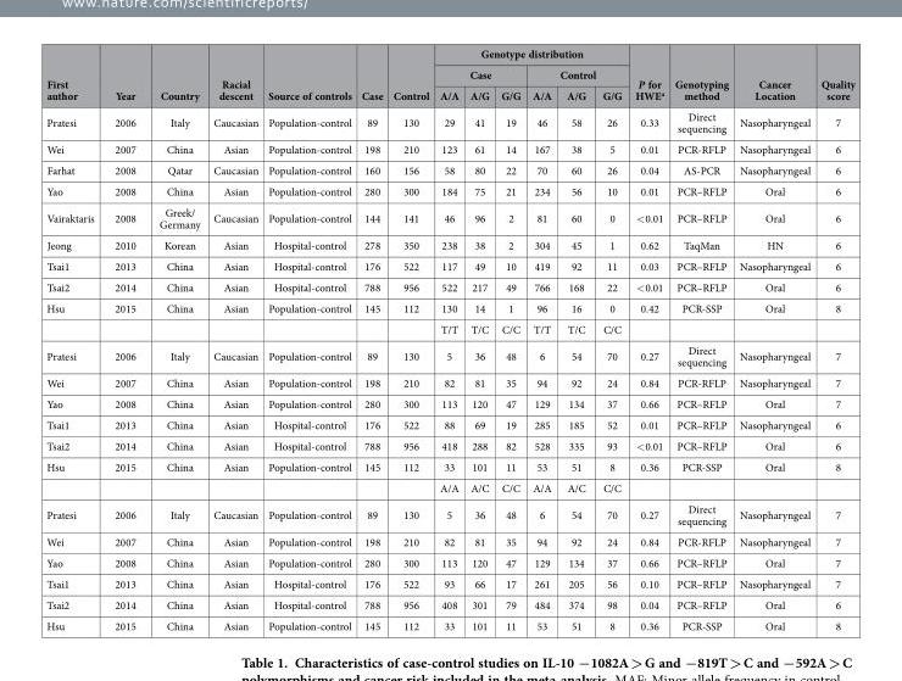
<table><thead><tr><td rowspan="3">First author</td><td rowspan="3">Year</td><td rowspan="3">Country</td><td rowspan="3">Racial descent</td><td rowspan="3">Source of controls</td><td rowspan="3">Case</td><td rowspan="3">Control</td><td colspan="6">Genotype distribution</td><td rowspan="3">P for HWE<sup>a</sup></td><td rowspan="3">Genotyping method</td><td rowspan="3">Cancer Location</td><td rowspan="3">Quality score</td></tr><tr><td colspan="3">Case</td><td colspan="3">Control</td></tr><tr><td>A/A</td><td>A/G</td><td>G/G</td><td>A/A</td><td>A/G</td><td>G/G</td></tr></thead><tbody><tr><td>Pratesi</td><td>2006</td><td>Italy</td><td>Caucasian</td><td>Population-control</td><td>89</td><td>130</td><td>29</td><td>41</td><td>19</td><td>46</td><td>58</td><td>26</td><td>0.33</td><td>Direct sequencing</td><td>Nasopharyngeal</td><td>7</td></tr><tr><td>Wei</td><td>2007</td><td>China</td><td>Asian</td><td>Population-control</td><td>198</td><td>210</td><td>123</td><td>61</td><td>14</td><td>167</td><td>38</td><td>5</td><td>0.01</td><td>PCR-RFLP</td><td>Nasopharyngeal</td><td>6</td></tr><tr><td>Farhat</td><td>2008</td><td>Qatar</td><td>Caucasian</td><td>Population-control</td><td>160</td><td>156</td><td>58</td><td>80</td><td>22</td><td>70</td><td>60</td><td>26</td><td>0.04</td><td>AS-PCR</td><td>Nasopharyngeal</td><td>6</td></tr><tr><td>Yao</td><td>2008</td><td>China</td><td>Asian</td><td>Population-control</td><td>280</td><td>300</td><td>184</td><td>75</td><td>21</td><td>234</td><td>56</td><td>10</td><td>0.01</td><td>PCR–RFLP</td><td>Oral</td><td>6</td></tr><tr><td>Vairaktaris</td><td>2008</td><td>Greek/ Germany</td><td>Caucasian</td><td>Population-control</td><td>144</td><td>141</td><td>46</td><td>96</td><td>2</td><td>81</td><td>60</td><td>0</td><td>&lt; 0.01</td><td>PCR–RFLP</td><td>Oral</td><td>6</td></tr><tr><td>Jeong</td><td>2010</td><td>Korean</td><td>Asian</td><td>Hospital-control</td><td>278</td><td>350</td><td>238</td><td>38</td><td>2</td><td>304</td><td>45</td><td>1</td><td>0.62</td><td>TaqMan</td><td>HN</td><td>6</td></tr><tr><td>Tsai1</td><td>2013</td><td>China</td><td>Asian</td><td>Hospital-control</td><td>176</td><td>522</td><td>117</td><td>49</td><td>10</td><td>419</td><td>92</td><td>11</td><td>0.03</td><td>PCR–RFLP</td><td>Nasopharyngeal</td><td>6</td></tr><tr><td>Tsai2</td><td>2014</td><td>China</td><td>Asian</td><td>Hospital-control</td><td>788</td><td>956</td><td>522</td><td>217</td><td>49</td><td>766</td><td>168</td><td>22</td><td>&lt; 0.01</td><td>PCR–RFLP</td><td>Oral</td><td>6</td></tr><tr><td rowspan="2">Hsu</td><td>2015</td><td>China</td><td>Asian</td><td>Population-control</td><td>145</td><td>112</td><td>130</td><td>14</td><td>1</td><td>96</td><td>16</td><td>0</td><td>0.42</td><td>PCR-SSP</td><td>Oral</td><td>8</td></tr><tr><td></td><td></td><td></td><td></td><td></td><td></td><td>T/T</td><td>T/C</td><td>C/C</td><td>T/T</td><td>T/C</td><td>C/C</td><td></td><td></td><td></td><td></td></tr><tr><td>Pratesi</td><td>2006</td><td>Italy</td><td>Caucasian</td><td>Population-control</td><td>89</td><td>130</td><td>5</td><td>36</td><td>48</td><td>6</td><td>54</td><td>70</td><td>0.27</td><td>Direct sequencing</td><td>Nasopharyngeal</td><td>7</td></tr><tr><td>Wei</td><td>2007</td><td>China</td><td>Asian</td><td>Population-control</td><td>198</td><td>210</td><td>82</td><td>81</td><td>35</td><td>94</td><td>92</td><td>24</td><td>0.84</td><td>PCR-RFLP</td><td>Nasopharyngeal</td><td>7</td></tr><tr><td>Yao</td><td>2008</td><td>China</td><td>Asian</td><td>Population-control</td><td>280</td><td>300</td><td>113</td><td>120</td><td>47</td><td>129</td><td>134</td><td>37</td><td>0.66</td><td>PCR–RFLP</td><td>Oral</td><td>7</td></tr><tr><td>Tsai1</td><td>2013</td><td>China</td><td>Asian</td><td>Hospital-control</td><td>176</td><td>522</td><td>88</td><td>69</td><td>19</td><td>285</td><td>185</td><td>52</td><td>0.01</td><td>PCR–RFLP</td><td>Nasopharyngeal</td><td>6</td></tr><tr><td>Tsai2</td><td>2014</td><td>China</td><td>Asian</td><td>Hospital-control</td><td>788</td><td>956</td><td>418</td><td>288</td><td>82</td><td>528</td><td>335</td><td>93</td><td>&lt; 0.01</td><td>PCR–RFLP</td><td>Oral</td><td>6</td></tr><tr><td rowspan="2">Hsu</td><td>2015</td><td>China</td><td>Asian</td><td>Population-control</td><td>145</td><td>112</td><td>33</td><td>101</td><td>11</td><td>53</td><td>51</td><td>8</td><td>0.36</td><td>PCR-SSP</td><td>Oral</td><td>8</td></tr><tr><td></td><td></td><td></td><td></td><td></td><td></td><td>A/A</td><td>A/C</td><td>C/C</td><td>A/A</td><td>A/C</td><td>C/C</td><td></td><td></td><td></td><td></td></tr><tr><td>Pratesi</td><td>2006</td><td>Italy</td><td>Caucasian</td><td>Population-control</td><td>89</td><td>130</td><td>5</td><td>36</td><td>48</td><td>6</td><td>54</td><td>70</td><td>0.27</td><td>Direct sequencing</td><td>Nasopharyngeal</td><td>7</td></tr><tr><td>Wei</td><td>2007</td><td>China</td><td>Asian</td><td>Population-control</td><td>198</td><td>210</td><td>82</td><td>81</td><td>35</td><td>94</td><td>92</td><td>24</td><td>0.84</td><td>PCR-RFLP</td><td>Nasopharyngeal</td><td>7</td></tr><tr><td>Yao</td><td>2008</td><td>China</td><td>Asian</td><td>Population-control</td><td>280</td><td>300</td><td>113</td><td>120</td><td>47</td><td>129</td><td>134</td><td>37</td><td>0.66</td><td>PCR–RFLP</td><td>Oral</td><td>7</td></tr><tr><td>Tsai1</td><td>2013</td><td>China</td><td>Asian</td><td>Hospital-control</td><td>176</td><td>522</td><td>93</td><td>66</td><td>17</td><td>261</td><td>205</td><td>56</td><td>0.10</td><td>PCR–RFLP</td><td>Nasopharyngeal</td><td>7</td></tr><tr><td>Tsai2</td><td>2014</td><td>China</td><td>Asian</td><td>Hospital-control</td><td>788</td><td>956</td><td>408</td><td>301</td><td>79</td><td>484</td><td>374</td><td>98</td><td>0.04</td><td>PCR–RFLP</td><td>Oral</td><td>6</td></tr><tr><td>Hsu</td><td>2015</td><td>China</td><td>Asian</td><td>Population-control</td><td>145</td><td>112</td><td>33</td><td>101</td><td>11</td><td>53</td><td>51</td><td>8</td><td>0.36</td><td>PCR-SSP</td><td>Oral</td><td>8</td></tr></tbody></table>